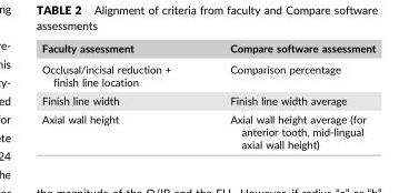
<table><thead><tr><td>Faculty assessment</td><td>Compare software assessment</td></tr></thead><tbody><tr><td>Occlusal/incisal reduction + finish line location</td><td>Comparison percentage</td></tr><tr><td>Finish line width</td><td>Finish line width average</td></tr><tr><td>Axial wall height</td><td>Axial wall height average (for anterior tooth, mid‐lingual axial wall height)</td></tr></tbody></table>